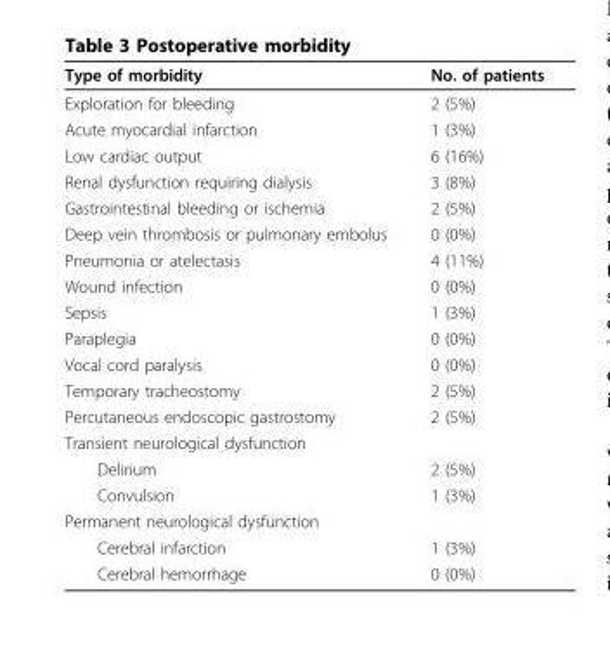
<table><thead><tr><td>Type of morbidity</td><td>No. of patients</td></tr></thead><tbody><tr><td>Exploration for bleeding</td><td>2 (5%)</td></tr><tr><td>Acute myocardial infarction</td><td>1 (3%)</td></tr><tr><td>Low cardiac output</td><td>6 (16%)</td></tr><tr><td>Renal dysfunction requiring dialysis</td><td>3 (8%)</td></tr><tr><td>Gastrointestinal bleeding or ischemia</td><td>2 (5%)</td></tr><tr><td>Deep vein thrombosis or pulmonary embolus</td><td>0 (0%)</td></tr><tr><td>Pneumonia or atelectasis</td><td>4 (11%)</td></tr><tr><td>Wound infection</td><td>0 (0%)</td></tr><tr><td>Sepsis</td><td>1 (3%)</td></tr><tr><td>Paraplegia</td><td>0 (0%)</td></tr><tr><td>Vocal cord paralysis</td><td>0 (0%)</td></tr><tr><td>Temporary tracheostomy</td><td>2 (5%)</td></tr><tr><td>Percutaneous endoscopic gastrostomy</td><td>2 (5%)</td></tr><tr><td colspan="2">Transient neurological dysfunction</td></tr><tr><td>Delirium</td><td>2 (5%)</td></tr><tr><td>Convulsion</td><td>1 (3%)</td></tr><tr><td colspan="2">Permanent neurological dysfunction</td></tr><tr><td>Cerebral infarction</td><td>1 (3%)</td></tr><tr><td>Cerebral hemorrhage</td><td>0 (0%)</td></tr></tbody></table>